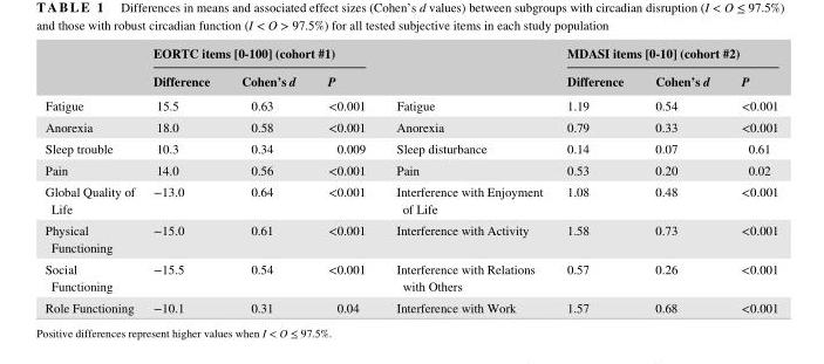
<table><thead><tr><td rowspan="2"></td><td colspan="3">EORTC items [0- 100] (cohort #1)</td><td rowspan="2"></td><td colspan="3">MDASI items [0- 10] (cohort #2)</td></tr><tr><td>Difference</td><td>Cohen’s d</td><td>P</td><td>Difference</td><td>Cohen’s d</td><td>P</td></tr></thead><tbody><tr><td>Fatigue</td><td>15.5</td><td>0.63</td><td>&lt;0.001</td><td>Fatigue</td><td>1.19</td><td>0.54</td><td>&lt;0.001</td></tr><tr><td>Anorexia</td><td>18.0</td><td>0.58</td><td>&lt;0.001</td><td>Anorexia</td><td>0.79</td><td>0.33</td><td>&lt;0.001</td></tr><tr><td>Sleep trouble</td><td>10.3</td><td>0.34</td><td>0.009</td><td>Sleep disturbance</td><td>0.14</td><td>0.07</td><td>0.61</td></tr><tr><td>Pain</td><td>14.0</td><td>0.56</td><td>&lt;0.001</td><td>Pain</td><td>0.53</td><td>0.20</td><td>0.02</td></tr><tr><td>Global Quality of Life</td><td>−13.0</td><td>0.64</td><td>&lt;0.001</td><td>Interference with Enjoyment of Life</td><td>1.08</td><td>0.48</td><td>&lt;0.001</td></tr><tr><td>Physical Functioning</td><td>−15.0</td><td>0.61</td><td>&lt;0.001</td><td>Interference with Activity</td><td>1.58</td><td>0.73</td><td>&lt;0.001</td></tr><tr><td>Social Functioning</td><td>−15.5</td><td>0.54</td><td>&lt;0.001</td><td>Interference with Relations with Others</td><td>0.57</td><td>0.26</td><td>&lt;0.001</td></tr><tr><td>Role Functioning</td><td>−10.1</td><td>0.31</td><td>0.04</td><td>Interference with Work</td><td>1.57</td><td>0.68</td><td>&lt;0.001</td></tr></tbody></table>